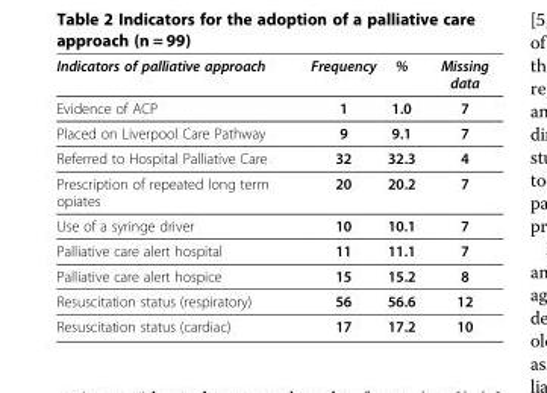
<table><thead><tr><td>Indicators of palliative approach</td><td>Frequency</td><td>%</td><td>Missing data</td></tr></thead><tbody><tr><td>Evidence of ACP</td><td>1</td><td>1.0</td><td>7</td></tr><tr><td>Placed on Liverpool Care Pathway</td><td>9</td><td>9.1</td><td>7</td></tr><tr><td>Referred to Hospital Palliative Care</td><td>32</td><td>32.3</td><td>4</td></tr><tr><td>Prescription of repeated long term opiates</td><td>20</td><td>20.2</td><td>7</td></tr><tr><td>Use of a syringe driver</td><td>10</td><td>10.1</td><td>7</td></tr><tr><td>Palliative care alert hospital</td><td>11</td><td>11.1</td><td>7</td></tr><tr><td>Palliative care alert hospice</td><td>15</td><td>15.2</td><td>8</td></tr><tr><td>Resuscitation status (respiratory)</td><td>56</td><td>56.6</td><td>12</td></tr><tr><td>Resuscitation status (cardiac)</td><td>17</td><td>17.2</td><td>10</td></tr></tbody></table>